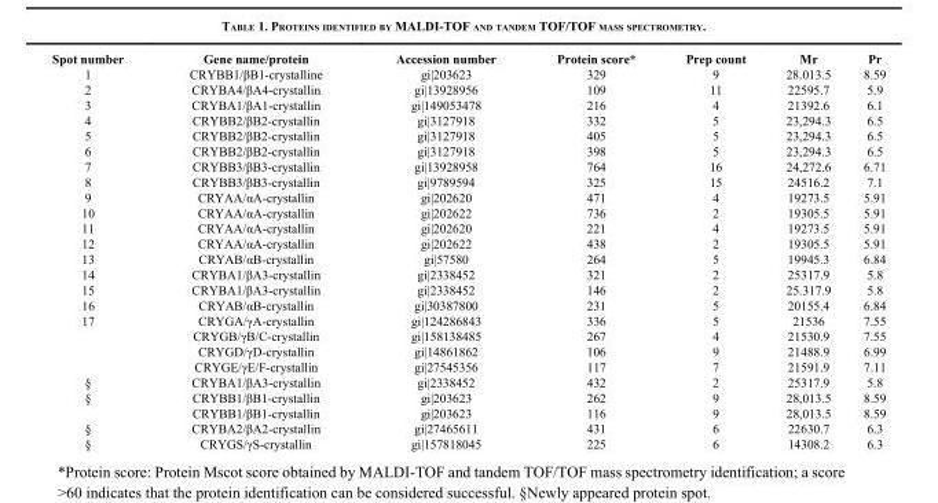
<table><thead><tr><td>Spot number</td><td>Gene name/protein</td><td>Accession number</td><td>Protein score*</td><td>Prep count</td><td>Mr</td><td>Pr</td></tr></thead><tbody><tr><td>1</td><td>CRYBB1/βB1-crystalline</td><td>gi|203623</td><td>329</td><td>9</td><td>28.013.5</td><td>8.59</td></tr><tr><td>2</td><td>CRYBA4/βA4-crystallin</td><td>gi|13928956</td><td>109</td><td>11</td><td>22595.7</td><td>5.9</td></tr><tr><td>3</td><td>CRYBA1/βA1-crystallin</td><td>gi|149053478</td><td>216</td><td>4</td><td>21392.6</td><td>6.1</td></tr><tr><td>4</td><td>CRYBB2/βB2-crystallin</td><td>gi|3127918</td><td>332</td><td>5</td><td>23,294.3</td><td>6.5</td></tr><tr><td>5</td><td>CRYBB2/βB2-crystallin</td><td>gi|3127918</td><td>405</td><td>5</td><td>23,294.3</td><td>6.5</td></tr><tr><td>6</td><td>CRYBB2/βB2-crystallin</td><td>gi|3127918</td><td>398</td><td>5</td><td>23,294.3</td><td>6.5</td></tr><tr><td>7</td><td>CRYBB3/βB3-crystallin</td><td>gi|13928958</td><td>764</td><td>16</td><td>24,272.6</td><td>6.71</td></tr><tr><td>8</td><td>CRYBB3/βB3-crystallin</td><td>gi|9789594</td><td>325</td><td>15</td><td>24516.2</td><td>7.1</td></tr><tr><td>9</td><td>CRYAA/αA-crystallin</td><td>gi|202620</td><td>471</td><td>4</td><td>19273.5</td><td>5.91</td></tr><tr><td>10</td><td>CRYAA/αA-crystallin</td><td>gi|202622</td><td>736</td><td>2</td><td>19305.5</td><td>5.91</td></tr><tr><td>11</td><td>CRYAA/αA-crystallin</td><td>gi|202620</td><td>221</td><td>4</td><td>19273.5</td><td>5.91</td></tr><tr><td>12</td><td>CRYAA/αA-crystallin</td><td>gi|202622</td><td>438</td><td>2</td><td>19305.5</td><td>5.91</td></tr><tr><td>13</td><td>CRYAB/αB-crystallin</td><td>gi|57580</td><td>264</td><td>5</td><td>19945.3</td><td>6.84</td></tr><tr><td>14</td><td>CRYBA1/βA3-crystallin</td><td>gi|2338452</td><td>321</td><td>2</td><td>25317.9</td><td>5.8</td></tr><tr><td>15</td><td>CRYBA1/βA3-crystallin</td><td>gi|2338452</td><td>146</td><td>2</td><td>25.317.9</td><td>5.8</td></tr><tr><td>16</td><td>CRYAB/αB-crystallin</td><td>gi|30387800</td><td>231</td><td>5</td><td>20155.4</td><td>6.84</td></tr><tr><td rowspan="4">17</td><td>CRYGA/γA-crystallin</td><td>gi|124286843</td><td>336</td><td>5</td><td>21536</td><td>7.55</td></tr><tr><td>CRYGB/γB/C-crystallin</td><td>gi|158138485</td><td>267</td><td>4</td><td>21530.9</td><td>7.55</td></tr><tr><td>CRYGD/γD-crystallin</td><td>gi|14861862</td><td>106</td><td>9</td><td>21488.9</td><td>6.99</td></tr><tr><td>CRYGE/γE/F-crystallin</td><td>gi|27545356</td><td>117</td><td>7</td><td>21591.9</td><td>7.11</td></tr><tr><td>§</td><td>CRYBA1/βA3-crystallin</td><td>gi|2338452</td><td>432</td><td>2</td><td>25317.9</td><td>5.8</td></tr><tr><td rowspan="2">§</td><td>CRYBB1/βB1-crystallin</td><td>gi|203623</td><td>262</td><td>9</td><td>28,013.5</td><td>8.59</td></tr><tr><td>CRYBB1/βB1-crystallin</td><td>gi|203623</td><td>116</td><td>9</td><td>28,013.5</td><td>8.59</td></tr><tr><td>§</td><td>CRYBA2/βA2-crystallin</td><td>gi|27465611</td><td>431</td><td>6</td><td>22630.7</td><td>6.3</td></tr><tr><td>§</td><td>CRYGS/γS-crystallin</td><td>gi|157818045</td><td>225</td><td>6</td><td>14308.2</td><td>6.3</td></tr></tbody></table>